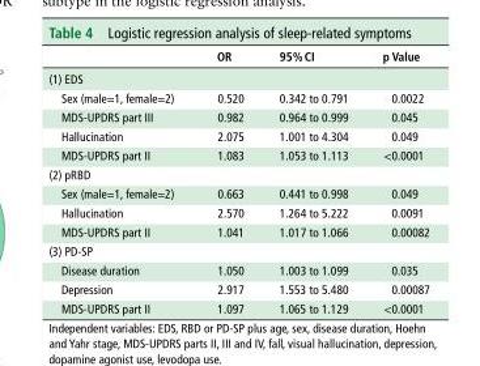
<table><thead><tr><td></td><td>Or</td><td>95% cI</td><td>p Value</td></tr></thead><tbody><tr><td colspan="4">(1) EDS</td></tr><tr><td>Sex (male=1, female=2)</td><td>0.520</td><td>0.342 to 0.791</td><td>0.0022</td></tr><tr><td>MDS-UPDRS part III</td><td>0.982</td><td>0.964 to 0.999</td><td>0.045</td></tr><tr><td>Hallucination</td><td>2.075</td><td>1.001 to 4.304</td><td>0.049</td></tr><tr><td>MDS-UPDRS part II</td><td>1.083</td><td>1.053 to 1.113</td><td>&lt;0.0001</td></tr><tr><td colspan="4">(2) pRBD</td></tr><tr><td>Sex (male=1, female=2)</td><td>0.663</td><td>0.441 to 0.998</td><td>0.049</td></tr><tr><td>Hallucination</td><td>2.570</td><td>1.264 to 5.222</td><td>0.0091</td></tr><tr><td>MDS-UPDRS part II</td><td>1.041</td><td>1.017 to 1.066</td><td>0.00082</td></tr><tr><td colspan="4">(3) PD-SP</td></tr><tr><td>Disease duration</td><td>1.050</td><td>1.003 to 1.099</td><td>0.035</td></tr><tr><td>Depression</td><td>2.917</td><td>1.553 to 5.480</td><td>0.00087</td></tr><tr><td>MDS-UPDRS part II</td><td>1.097</td><td>1.065 to 1.129</td><td>&lt;0.0001</td></tr></tbody></table>